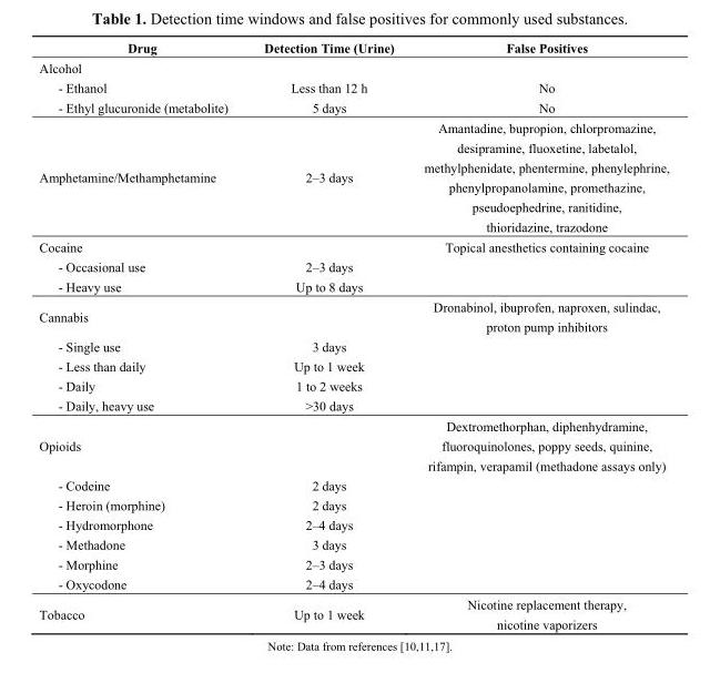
<table><thead><tr><td>Drug</td><td>Detection Time (Urine)</td><td>False Positives</td></tr></thead><tbody><tr><td colspan="3">Alcohol</td></tr><tr><td>- Ethanol</td><td>Less than 12 h</td><td>No</td></tr><tr><td>- Ethyl glucuronide (metabolite)</td><td>5 days</td><td>No</td></tr><tr><td>Amphetamine/Methamphetamine</td><td>2–3 days</td><td>Amantadine, bupropion, chlorpromazine, desipramine, fluoxetine, labetalol, methylphenidate, phentermine, phenylephrine, phenylpropanolamine, promethazine, pseudoephedrine, ranitidine, thioridazine, trazodone</td></tr><tr><td>Cocaine</td><td></td><td>Topical anesthetics containing cocaine</td></tr><tr><td>- Occasional use</td><td>2–3 days</td><td></td></tr><tr><td>- Heavy use</td><td>Up to 8 days</td><td></td></tr><tr><td>Cannabis</td><td></td><td>Dronabinol, ibuprofen, naproxen, sulindac, proton pump inhibitors</td></tr><tr><td>- Single use</td><td>3 days</td><td></td></tr><tr><td>- Less than daily</td><td>Up to 1 week</td><td></td></tr><tr><td>- Daily</td><td>1 to 2 weeks</td><td></td></tr><tr><td>- Daily, heavy use</td><td>&gt;30 days</td><td></td></tr><tr><td>Opioids</td><td></td><td>Dextromethorphan, diphenhydramine, fluoroquinolones, poppy seeds, quinine, rifampin, verapamil (methadone assays only)</td></tr><tr><td>- Codeine</td><td>2 days</td><td></td></tr><tr><td>- Heroin (morphine)</td><td>2 days</td><td></td></tr><tr><td>- Hydromorphone</td><td>2–4 days</td><td></td></tr><tr><td>- Methadone</td><td>3 days</td><td></td></tr><tr><td>- Morphine</td><td>2–3 days</td><td></td></tr><tr><td>- Oxycodone</td><td>2–4 days</td><td></td></tr><tr><td>Tobacco</td><td>Up to 1 week</td><td>Nicotine replacement therapy, nicotine vaporizers</td></tr></tbody></table>